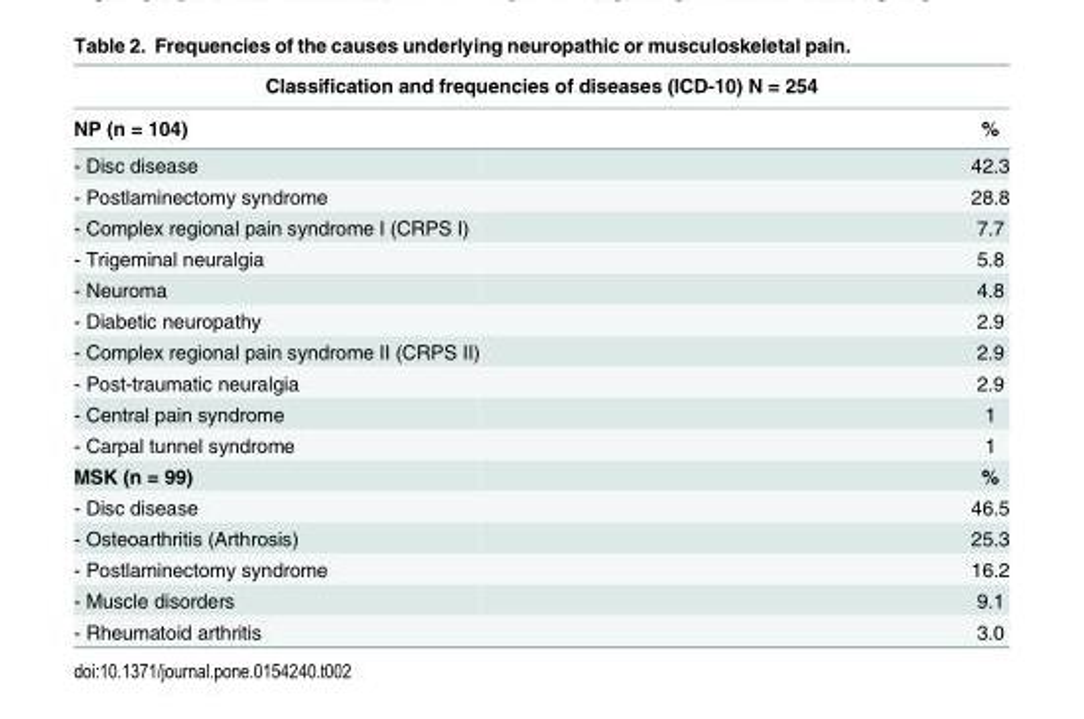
<table><thead><tr><td colspan="2">Classification and frequencies of diseases (ICD-10) N = 254</td></tr><tr><td>NP (n = 104)</td><td>%</td></tr></thead><tbody><tr><td>- Disc disease</td><td>42.3</td></tr><tr><td>- Postlaminectomy syndrome</td><td>28.8</td></tr><tr><td>- Complex regional pain syndrome I (CRPS I)</td><td>7.7</td></tr><tr><td>- Trigeminal neuralgia</td><td>5.8</td></tr><tr><td>- Neuroma</td><td>4.8</td></tr><tr><td>- Diabetic neuropathy</td><td>2.9</td></tr><tr><td>- Complex regional pain syndrome II (CRPS II)</td><td>2.9</td></tr><tr><td>- Post-traumatic neuralgia</td><td>2.9</td></tr><tr><td>- Central pain syndrome</td><td>1</td></tr><tr><td>- Carpal tunnel syndrome</td><td>1</td></tr><tr><td>MSK (n = 99)</td><td>%</td></tr><tr><td>- Disc disease</td><td>46.5</td></tr><tr><td>- Osteoarthritis (Arthrosis)</td><td>25.3</td></tr><tr><td>- Postlaminectomy syndrome</td><td>16.2</td></tr><tr><td>- Muscle disorders</td><td>9.1</td></tr><tr><td>- Rheumatoid arthritis</td><td>3.0</td></tr></tbody></table>